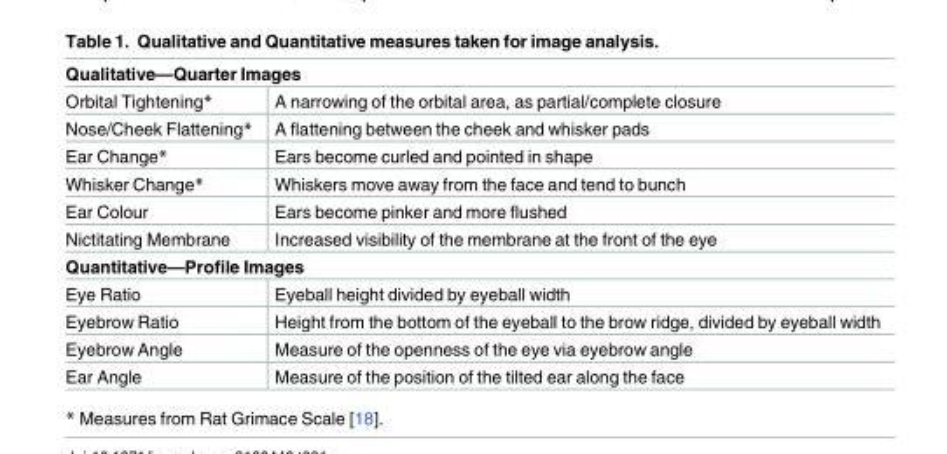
<table><tbody><tr><td colspan="2">Qualitative—Quarter Images</td></tr><tr><td>Orbital Tightening*</td><td>A narrowing of the orbital area, as partial/complete closure</td></tr><tr><td>Nose/Cheek Flattening*</td><td>A flattening between the cheek and whisker pads</td></tr><tr><td>Ear Change*</td><td>Ears become curled and pointed in shape</td></tr><tr><td>Whisker Change*</td><td>Whiskers move away from the face and tend to bunch</td></tr><tr><td>Ear Colour</td><td>Ears become pinker and more flushed</td></tr><tr><td>Nictitating Membrane</td><td>Increased visibility of the membrane at the front of the eye</td></tr><tr><td colspan="2">Quantitative—Profile Images</td></tr><tr><td>Eye Ratio</td><td>Eyeball height divided by eyeball width</td></tr><tr><td>Eyebrow Ratio</td><td>Height from the bottom of the eyeball to the brow ridge, divided by eyeball width</td></tr><tr><td>Eyebrow Angle</td><td>Measure of the openness of the eye via eyebrow angle</td></tr><tr><td>Ear Angle</td><td>Measure of the position of the tilted ear along the face</td></tr></tbody></table>